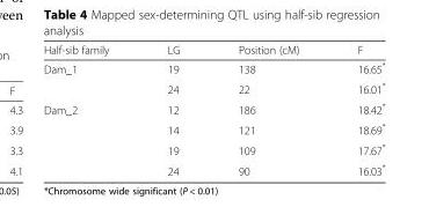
<table><thead><tr><td>Half-sib family</td><td>LG</td><td>Position (cM)</td><td>F</td></tr></thead><tbody><tr><td rowspan="2">Dam_1</td><td>19</td><td>138</td><td>16.65*</td></tr><tr><td>24</td><td>22</td><td>16.01*</td></tr><tr><td rowspan="4">Dam_2</td><td>12</td><td>186</td><td>18.42*</td></tr><tr><td>14</td><td>121</td><td>18.69*</td></tr><tr><td>19</td><td>109</td><td>17.67*</td></tr><tr><td>24</td><td>90</td><td>16.03*</td></tr></tbody></table>